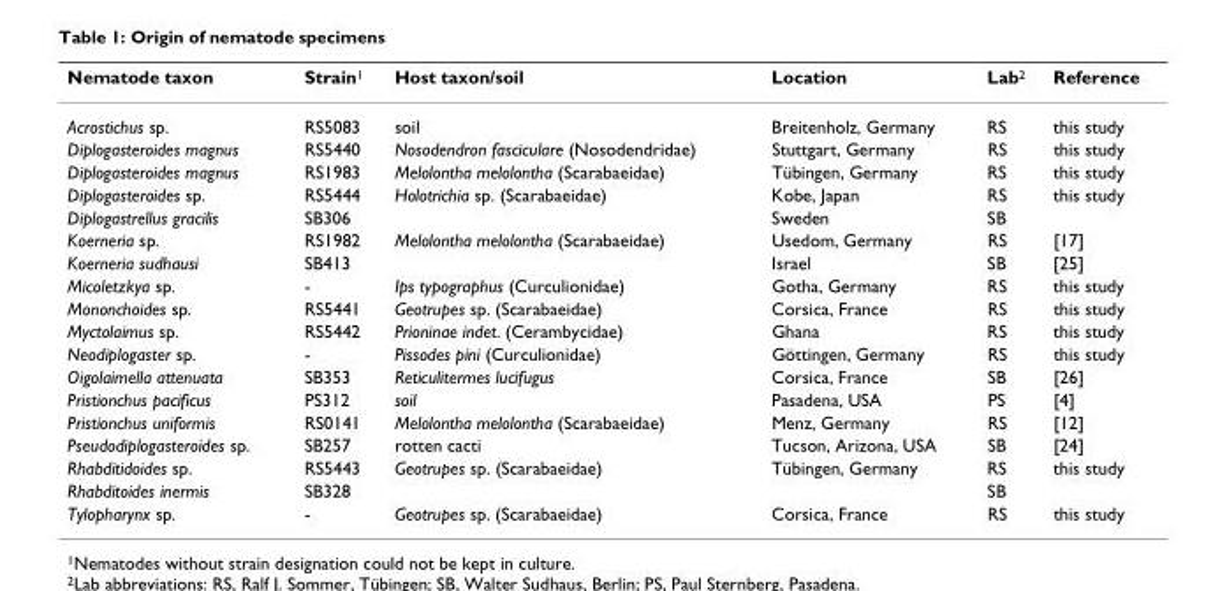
<table><thead><tr><td>Nematode taxon</td><td>Strain<sup>1</sup></td><td>Host taxon/soil</td><td>Location</td><td>Lab<sup>2</sup></td><td>Reference</td></tr></thead><tbody><tr><td>Acrostichus sp.</td><td>RS5083</td><td>soil</td><td>Breitenholz, Germany</td><td>RS</td><td>this study</td></tr><tr><td>Diplogasteroides magnus</td><td>RS5440</td><td>Nosodendron fasciculare (Nosodendridae)</td><td>Stuttgart, Germany</td><td>RS</td><td>this study</td></tr><tr><td>Diplogasteroides magnus</td><td>RS1983</td><td>Melolontha melolontha (Scarabaeidae)</td><td>Tübingen, Germany</td><td>RS</td><td>this study</td></tr><tr><td>Diplogasteroides sp.</td><td>RS5444</td><td>Holotrichia sp. (Scarabaeidae)</td><td>Kobe, Japan</td><td>RS</td><td>this study</td></tr><tr><td>Diplogastrellus gracilis</td><td>SB306</td><td></td><td>Sweden</td><td>SB</td><td></td></tr><tr><td>Koerneria sp.</td><td>RS1982</td><td>Melolontha melolontha (Scarabaeidae)</td><td>Usedom, Germany</td><td>RS</td><td>[17]</td></tr><tr><td>Koerneria sudhausi</td><td>SB413</td><td></td><td>Israel</td><td>SB</td><td>[25]</td></tr><tr><td>Micoletzkya sp.</td><td>-</td><td>Ips typographus (Curculionidae)</td><td>Gotha, Germany</td><td>RS</td><td>this study</td></tr><tr><td>Mononchoides sp.</td><td>RS5441</td><td>Geotrupes sp. (Scarabaeidae)</td><td>Corsica, France</td><td>RS</td><td>this study</td></tr><tr><td>Myctolaimus sp.</td><td>RS5442</td><td>Prioninae indet. (Cerambycidae)</td><td>Ghana</td><td>RS</td><td>this study</td></tr><tr><td>Neodiplogaster sp.</td><td>-</td><td>Pissodes pini (Curculionidae)</td><td>Göttingen, Germany</td><td>RS</td><td>this study</td></tr><tr><td>Oigolaimella attenuata</td><td>SB353</td><td>Reticulitermes lucifugus</td><td>Corsica, France</td><td>SB</td><td>[26]</td></tr><tr><td>Pristionchus pacificus</td><td>PS312</td><td>soil</td><td>Pasadena, USA</td><td>PS</td><td>[4]</td></tr><tr><td>Pristionchus uniformis</td><td>RS0141</td><td>Melolontha melolontha (Scarabaeidae)</td><td>Menz, Germany</td><td>RS</td><td>[12]</td></tr><tr><td>Pseudodiplogasteroides sp.</td><td>SB257</td><td>rotten cacti</td><td>Tucson, Arizona, USA</td><td>SB</td><td>[24]</td></tr><tr><td>Rhabditidoides sp.</td><td>RS5443</td><td>Geotrupes sp. (Scarabaeidae)</td><td>Tübingen, Germany</td><td>RS</td><td>this study</td></tr><tr><td>Rhabditoides inermis</td><td>SB328</td><td></td><td></td><td>SB</td><td></td></tr><tr><td>Tylopharynx sp.</td><td>-</td><td>Geotrupes sp. (Scarabaeidae)</td><td>Corsica, France</td><td>RS</td><td>this study</td></tr></tbody></table>